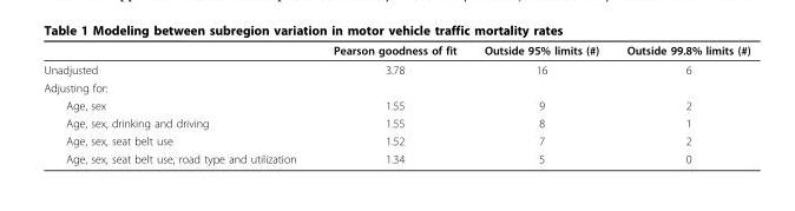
<table><thead><tr><td></td><td>Pearson goodness of fit</td><td>Outside 95% limits (#)</td><td>Outside 99.8% limits (#)</td></tr></thead><tbody><tr><td>Unadjusted</td><td>3.78</td><td>16</td><td>6</td></tr><tr><td colspan="4">Adjusting for:</td></tr><tr><td>Age, sex</td><td>1.55</td><td>9</td><td>2</td></tr><tr><td>Age, sex, drinking and driving</td><td>1.55</td><td>8</td><td>1</td></tr><tr><td>Age, sex, seat belt use</td><td>1.52</td><td>7</td><td>2</td></tr><tr><td>Age, sex, seat belt use, road type and utilization</td><td>1.34</td><td>5</td><td>0</td></tr></tbody></table>